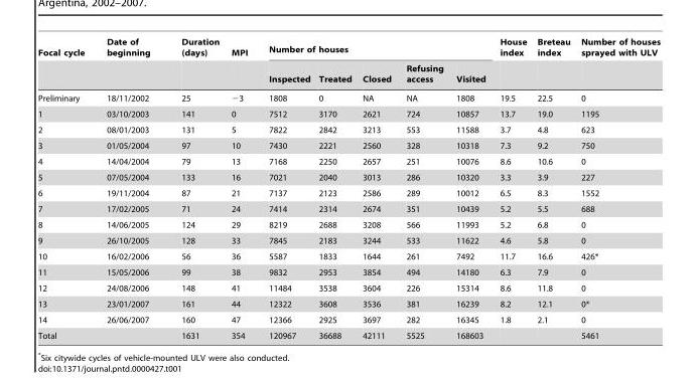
<table><thead><tr><td rowspan="2">Focal cycle</td><td rowspan="2">Date of beginning</td><td rowspan="2">Duration (days)</td><td rowspan="2">MPI</td><td colspan="5">Number of houses</td><td rowspan="2">House index</td><td rowspan="2">Breteau index</td><td rowspan="2">Number of houses sprayed with ULV</td></tr><tr><td>Inspected</td><td>Treated</td><td>Closed</td><td>Refusing access</td><td>Visited</td></tr></thead><tbody><tr><td>Preliminary</td><td>18/11/2002</td><td>25</td><td>−3</td><td>1808</td><td>0</td><td>NA</td><td>NA</td><td>1808</td><td>19.5</td><td>22.5</td><td>0</td></tr><tr><td>1</td><td>03/10/2003</td><td>141</td><td>0</td><td>7512</td><td>3170</td><td>2621</td><td>724</td><td>10857</td><td>13.7</td><td>19.0</td><td>1195</td></tr><tr><td>2</td><td>08/01/2003</td><td>131</td><td>5</td><td>7822</td><td>2842</td><td>3213</td><td>553</td><td>11588</td><td>3.7</td><td>4.8</td><td>623</td></tr><tr><td>3</td><td>01/05/2004</td><td>97</td><td>10</td><td>7430</td><td>2221</td><td>2560</td><td>328</td><td>10318</td><td>7.3</td><td>9.2</td><td>750</td></tr><tr><td>4</td><td>14/04/2004</td><td>79</td><td>13</td><td>7168</td><td>2250</td><td>2657</td><td>251</td><td>10076</td><td>8.6</td><td>10.6</td><td>0</td></tr><tr><td>5</td><td>07/05/2004</td><td>133</td><td>16</td><td>7021</td><td>2040</td><td>3013</td><td>286</td><td>10320</td><td>3.3</td><td>3.9</td><td>227</td></tr><tr><td>6</td><td>19/11/2004</td><td>87</td><td>21</td><td>7137</td><td>2123</td><td>2586</td><td>289</td><td>10012</td><td>6.5</td><td>8.3</td><td>1552</td></tr><tr><td>7</td><td>17/02/2005</td><td>71</td><td>24</td><td>7414</td><td>2314</td><td>2674</td><td>351</td><td>10439</td><td>5.2</td><td>5.5</td><td>688</td></tr><tr><td>8</td><td>14/06/2005</td><td>124</td><td>29</td><td>8219</td><td>2688</td><td>3208</td><td>566</td><td>11993</td><td>5.2</td><td>6.8</td><td>0</td></tr><tr><td>9</td><td>26/10/2005</td><td>128</td><td>33</td><td>7845</td><td>2183</td><td>3244</td><td>533</td><td>11622</td><td>4.6</td><td>5.8</td><td>0</td></tr><tr><td>10</td><td>16/02/2006</td><td>56</td><td>36</td><td>5587</td><td>1833</td><td>1644</td><td>261</td><td>7492</td><td>11.7</td><td>16.6</td><td>426*</td></tr><tr><td>11</td><td>15/05/2006</td><td>99</td><td>38</td><td>9832</td><td>2953</td><td>3854</td><td>494</td><td>14180</td><td>6.3</td><td>7.9</td><td>0</td></tr><tr><td>12</td><td>24/08/2006</td><td>148</td><td>41</td><td>11484</td><td>3538</td><td>3604</td><td>226</td><td>15314</td><td>8.6</td><td>11.8</td><td>0</td></tr><tr><td>13</td><td>23/01/2007</td><td>161</td><td>44</td><td>12322</td><td>3608</td><td>3536</td><td>381</td><td>16239</td><td>8.2</td><td>12.1</td><td>0*</td></tr><tr><td>14</td><td>26/06/2007</td><td>160</td><td>47</td><td>12366</td><td>2925</td><td>3697</td><td>282</td><td>16345</td><td>1.8</td><td>2.1</td><td>0</td></tr><tr><td>Total</td><td></td><td>1631</td><td>354</td><td>120967</td><td>36688</td><td>42111</td><td>5525</td><td>168603</td><td></td><td></td><td>5461</td></tr></tbody></table>